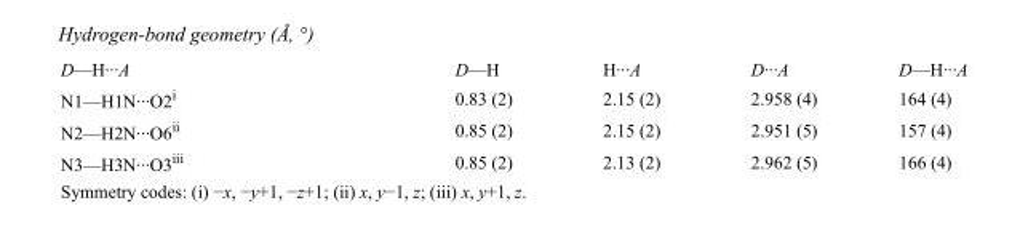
<table><tbody><tr><td>D—H···A</td><td>D—H</td><td>H···A</td><td>D···A</td><td>D—H···A</td></tr><tr><td>N1—H1N···O2<sup>i</sup></td><td>0.83 (2)</td><td>2.15 (2)</td><td>2.958 (4)</td><td>164 (4)</td></tr><tr><td>N2—H2N···O6<sup>ii</sup></td><td>0.85 (2)</td><td>2.15 (2)</td><td>2.951 (5)</td><td>157 (4)</td></tr><tr><td>N3—H3N···O3<sup>iii</sup></td><td>0.85 (2)</td><td>2.13 (2)</td><td>2.962 (5)</td><td>166 (4)</td></tr></tbody></table>